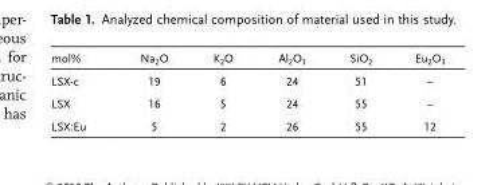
<table><thead><tr><td>mol%</td><td>Na<sub>2</sub>O</td><td>K<sub>2</sub>O</td><td>Al<sub>2</sub>O<sub>3</sub></td><td>SiO<sub>2</sub></td><td>Eu<sub>2</sub>O<sub>3</sub></td></tr></thead><tbody><tr><td>LSX-c</td><td>19</td><td>6</td><td>24</td><td>51</td><td>–</td></tr><tr><td>LSX</td><td>16</td><td>5</td><td>24</td><td>55</td><td>–</td></tr><tr><td>LSX:Eu</td><td>5</td><td>2</td><td>26</td><td>55</td><td>12</td></tr></tbody></table>